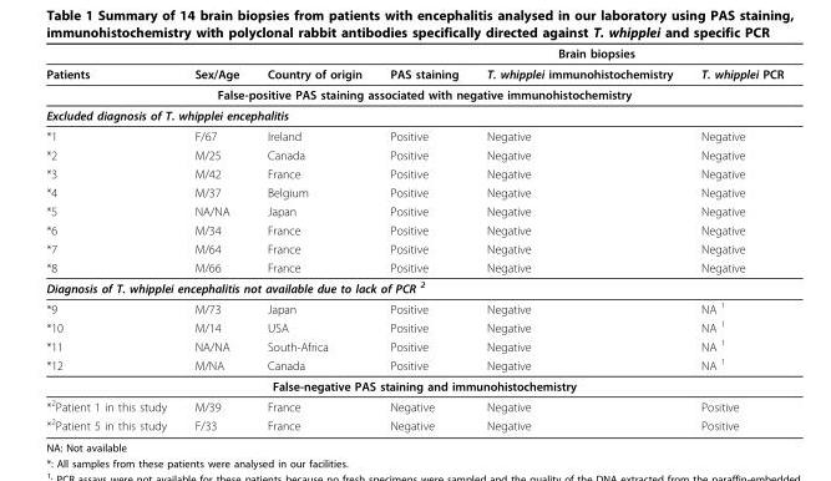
<table><thead><tr><td rowspan="2">Patients</td><td rowspan="2">Sex/Age</td><td rowspan="2">Country of origin</td><td colspan="3">Brain biopsies</td></tr><tr><td>PAS staining</td><td>T. whipplei immunohistochemistry</td><td>T. whipplei PCR</td></tr></thead><tbody><tr><td colspan="6">False-positive PAS staining associated with negative immunohistochemistry</td></tr><tr><td colspan="6">Excluded diagnosis of T. whipplei encephalitis</td></tr><tr><td>*1</td><td>F/67</td><td>Ireland</td><td>Positive</td><td>Negative</td><td>Negative</td></tr><tr><td>*2</td><td>M/25</td><td>Canada</td><td>Positive</td><td>Negative</td><td>Negative</td></tr><tr><td>*3</td><td>M/42</td><td>France</td><td>Positive</td><td>Negative</td><td>Negative</td></tr><tr><td>*4</td><td>M/37</td><td>Belgium</td><td>Positive</td><td>Negative</td><td>Negative</td></tr><tr><td>*5</td><td>NA/NA</td><td>Japan</td><td>Positive</td><td>Negative</td><td>Negative</td></tr><tr><td>*6</td><td>M/34</td><td>France</td><td>Positive</td><td>Negative</td><td>Negative</td></tr><tr><td>*7</td><td>M/64</td><td>France</td><td>Positive</td><td>Negative</td><td>Negative</td></tr><tr><td>*8</td><td>M/66</td><td>France</td><td>Positive</td><td>Negative</td><td>Negative</td></tr><tr><td colspan="6">Diagnosis of T. whipplei encephalitis not available due to lack of PCR <sup>2</sup></td></tr><tr><td>*9</td><td>M/73</td><td>Japan</td><td>Positive</td><td>Negative</td><td>NA <sup>1</sup></td></tr><tr><td>*10</td><td>M/14</td><td>USA</td><td>Positive</td><td>Negative</td><td>NA <sup>1</sup></td></tr><tr><td>*11</td><td>NA/NA</td><td>South-Africa</td><td>Positive</td><td>Negative</td><td>NA <sup>1</sup></td></tr><tr><td>*12</td><td>M/NA</td><td>Canada</td><td>Positive</td><td>Negative</td><td>NA <sup>1</sup></td></tr><tr><td colspan="6">False-negative PAS staining and immunohistochemistry</td></tr><tr><td>*<sup>2</sup>Patient 1 in this study</td><td>M/39</td><td>France</td><td>Negative</td><td>Negative</td><td>Positive</td></tr><tr><td>*<sup>2</sup>Patient 5 in this study</td><td>F/33</td><td>France</td><td>Negative</td><td>Negative</td><td>Positive</td></tr></tbody></table>